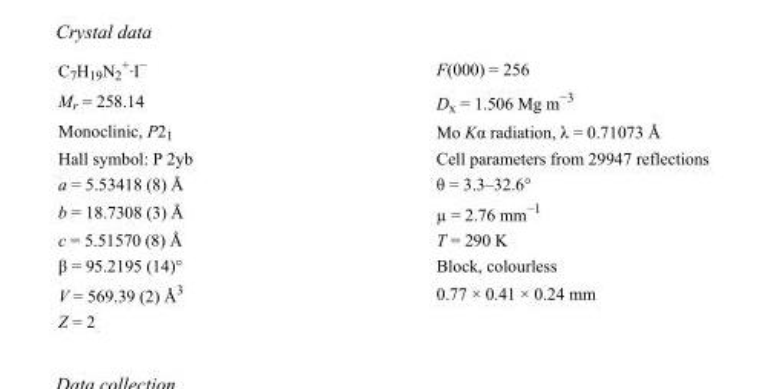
<table><tbody><tr><td>C<sub>7</sub>H<sub>19</sub>N<sub>2</sub> <sup>+</sup>·I<sup>−</sup></td><td>F(000) = 256</td></tr><tr><td>M<sub>r</sub> = 258.14</td><td>D<sub>x</sub> = 1.506 Mg m<sup>−3</sup></td></tr><tr><td>Monoclinic, P2<sub>1</sub></td><td>Mo Kα radiation, λ = 0.71073 Å</td></tr><tr><td>Hall symbol: P 2yb</td><td>Cell parameters from 29947 reflections</td></tr><tr><td>a = 5.53418 (8) Å</td><td>θ = 3.3–32.6°</td></tr><tr><td>b = 18.7308 (3) Å</td><td>µ = 2.76 mm<sup>−1</sup></td></tr><tr><td>c = 5.51570 (8) Å</td><td>T = 290 K</td></tr><tr><td>β = 95.2195 (14)°</td><td>Block, colourless</td></tr><tr><td>V = 569.39 (2) Å<sup>3</sup></td><td>0.77 × 0.41 × 0.24 mm</td></tr><tr><td>Z = 2</td><td></td></tr></tbody></table>